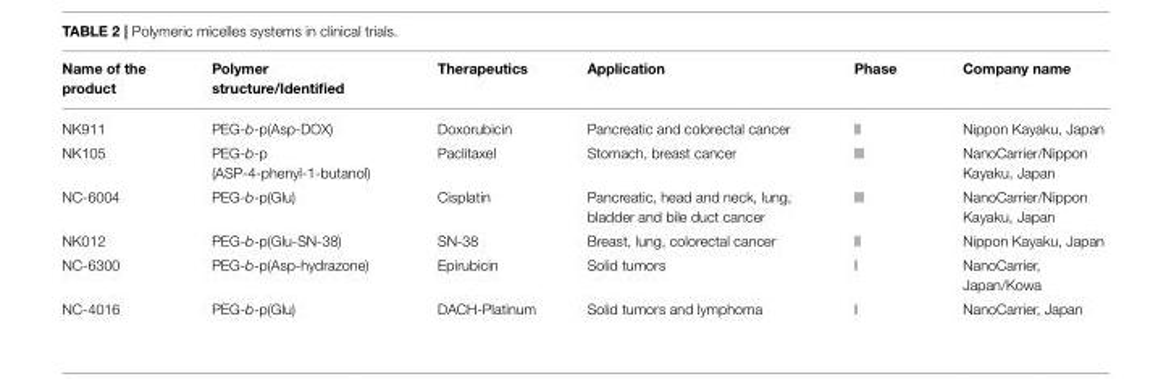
<table><thead><tr><td>Name of the product</td><td>Polymer structure/Identified</td><td>Therapeutics</td><td>Application</td><td>Phase</td><td>Company name</td></tr></thead><tbody><tr><td>NK911</td><td>PEG-b-p(Asp-DOX)</td><td>Doxorubicin</td><td>Pancreatic and colorectal cancer</td><td>II</td><td>Nippon Kayaku, Japan</td></tr><tr><td>NK105</td><td>PEG-b-p (ASP-4-phenyl-1-butanol)</td><td>Paclitaxel</td><td>Stomach, breast cancer</td><td>III</td><td>NanoCarrier/Nippon Kayaku, Japan</td></tr><tr><td>NC-6004</td><td>PEG-b-p(Glu)</td><td>Cisplatin</td><td>Pancreatic, head and neck, lung, bladder and bile duct cancer</td><td>III</td><td>NanoCarrier/Nippon Kayaku, Japan</td></tr><tr><td>NK012</td><td>PEG-b-p(Glu-SN-38)</td><td>SN-38</td><td>Breast, lung, colorectal cancer</td><td>II</td><td>Nippon Kayaku, Japan</td></tr><tr><td>NC-6300</td><td>PEG-b-p(Asp-hydrazone)</td><td>Epirubicin</td><td>Solid tumors</td><td>I</td><td>NanoCarrier, Japan/Kowa</td></tr><tr><td>NC-4016</td><td>PEG-b-p(Glu)</td><td>DACH-Platinum</td><td>Solid tumors and lymphoma</td><td>I</td><td>NanoCarrier, Japan</td></tr></tbody></table>